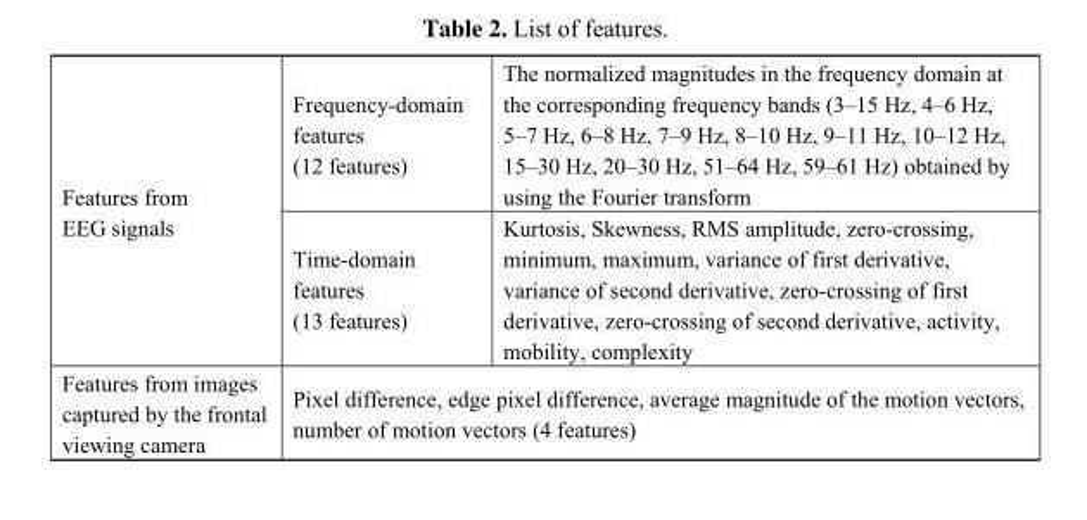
<table><tbody><tr><td rowspan="2">Features from EEG signals</td><td>Frequency-domain features (12 features)</td><td>The normalized magnitudes in the frequency domain at the corresponding frequency bands (3–15 Hz, 4–6 Hz, 5–7 Hz, 6–8 Hz, 7–9 Hz, 8–10 Hz, 9–11 Hz, 10–12 Hz, 15–30 Hz, 20–30 Hz, 51–64 Hz, 59–61 Hz) obtained by using the Fourier transform</td></tr><tr><td>Time-domain features (13 features)</td><td>Kurtosis, Skewness, RMS amplitude, zero-crossing, minimum, maximum, variance of first derivative, variance of second derivative, zero-crossing of first derivative, zero-crossing of second derivative, activity, mobility, complexity</td></tr><tr><td>Features from images captured by the frontal viewing camera</td><td colspan="2">Pixel difference, edge pixel difference, average magnitude of the motion vectors, number of motion vectors (4 features)</td></tr></tbody></table>